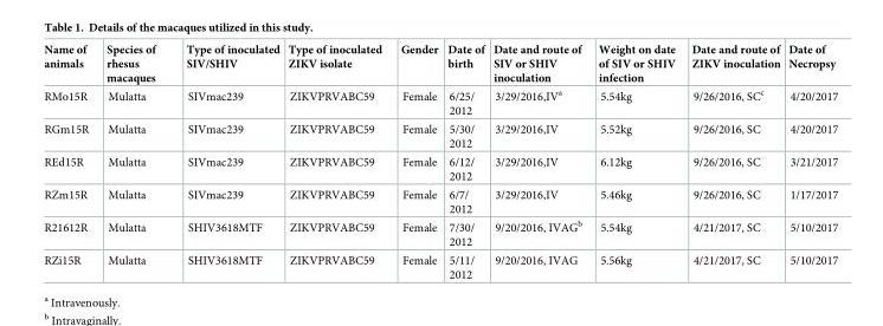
<table><thead><tr><td>Name of animals</td><td>Species of rhesus macaques</td><td>Type of inoculated SIV/SHIV</td><td>Type of inoculated ZIKV isolate</td><td>Gender</td><td>Date of birth</td><td>Date and route of SIV or SHIV inoculation</td><td>Weight on date of SIV or SHIV infection</td><td>Date and route of ZIKV inoculation</td><td>Date of Necropsy</td></tr></thead><tbody><tr><td>RMo15R</td><td>Mulatta</td><td>SIVmac239</td><td>ZIKVPRVABC59</td><td>Female</td><td>6/25/ 2012</td><td>3/29/2016,IV<sup>a</sup></td><td>5.54kg</td><td>9/26/2016, SC<sup>c</sup></td><td>4/20/2017</td></tr><tr><td>RGm15R</td><td>Mulatta</td><td>SIVmac239</td><td>ZIKVPRVABC59</td><td>Female</td><td>5/30/ 2012</td><td>3/29/2016,IV</td><td>5.52kg</td><td>9/26/2016, SC</td><td>4/20/2017</td></tr><tr><td>REd15R</td><td>Mulatta</td><td>SIVmac239</td><td>ZIKVPRVABC59</td><td>Female</td><td>6/12/ 2012</td><td>3/29/2016,IV</td><td>6.12kg</td><td>9/26/2016, SC</td><td>3/21/2017</td></tr><tr><td>RZm15R</td><td>Mulatta</td><td>SIVmac239</td><td>ZIKVPRVABC59</td><td>Female</td><td>6/7/ 2012</td><td>3/29/2016,IV</td><td>5.46kg</td><td>9/26/2016, SC</td><td>1/17/2017</td></tr><tr><td>R21612R</td><td>Mulatta</td><td>SHIV3618MTF</td><td>ZIKVPRVABC59</td><td>Female</td><td>7/30/ 2012</td><td>9/20/2016, IVAG<sup>b</sup></td><td>5.54kg</td><td>4/21/2017, SC</td><td>5/10/2017</td></tr><tr><td>RZi15R</td><td>Mulatta</td><td>SHIV3618MTF</td><td>ZIKVPRVABC59</td><td>Female</td><td>5/11/ 2012</td><td>9/20/2016, IVAG</td><td>5.56kg</td><td>4/21/2017, SC</td><td>5/10/2017</td></tr></tbody></table>